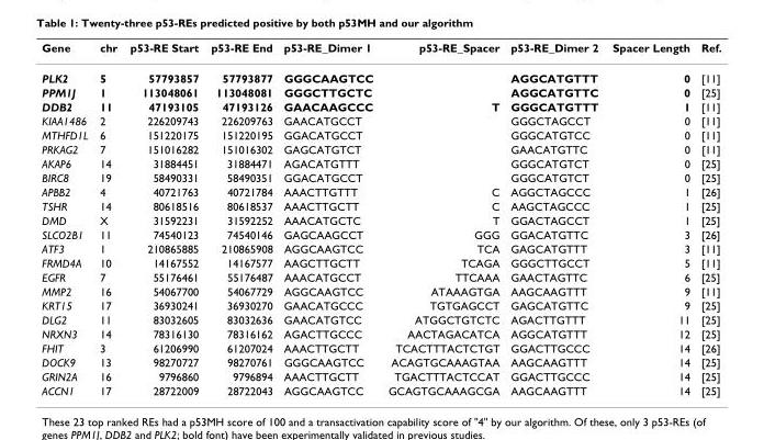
<table><thead><tr><td>Gene</td><td>chr</td><td>p53-RE Start</td><td>p53-RE End</td><td>p53-RE_Dimer 1</td><td>p53-RE_Spacer</td><td>p53-RE_Dimer 2</td><td>Spacer Length</td><td>Ref.</td></tr></thead><tbody><tr><td>PLK2</td><td>5</td><td>57793857</td><td>57793877</td><td>GGGCAAGTCC</td><td></td><td>AGGCATGTTT</td><td>0</td><td>[11]</td></tr><tr><td>PPM1J</td><td>1</td><td>113048061</td><td>113048081</td><td>GGGCTTGCTC</td><td></td><td>AGGCATGTTC</td><td>0</td><td>[25]</td></tr><tr><td>DDB2</td><td>11</td><td>47193105</td><td>47193126</td><td>GAACAAGCCC</td><td>T</td><td>GGGCATGTTT</td><td>1</td><td>[11]</td></tr><tr><td>KIAA1486</td><td>2</td><td>226209743</td><td>226209763</td><td>GAACATGCCT</td><td></td><td>GGGCTAGCCT</td><td>0</td><td>[11]</td></tr><tr><td>MTHFD1L</td><td>6</td><td>151220175</td><td>151220195</td><td>GGACATGCCT</td><td></td><td>GGGCATGTCC</td><td>0</td><td>[11]</td></tr><tr><td>PRKAG2</td><td>7</td><td>151016282</td><td>151016302</td><td>GAGCATGTCT</td><td></td><td>GAACATGTTC</td><td>0</td><td>[11]</td></tr><tr><td>AKAP6</td><td>14</td><td>31884451</td><td>31884471</td><td>AGACATGTTT</td><td></td><td>GGGCATGTCT</td><td>0</td><td>[25]</td></tr><tr><td>BIRC8</td><td>19</td><td>58490331</td><td>58490351</td><td>GGACATGCCT</td><td></td><td>GGGCATGTCT</td><td>0</td><td>[25]</td></tr><tr><td>APBB2</td><td>4</td><td>40721763</td><td>40721784</td><td>AAACTTGTTT</td><td>C</td><td>AGGCTAGCCC</td><td>1</td><td>[26]</td></tr><tr><td>TSHR</td><td>14</td><td>80618516</td><td>80618537</td><td>AAACTTGCTT</td><td>C</td><td>AAGCTAGCCC</td><td>1</td><td>[25]</td></tr><tr><td>DMD</td><td>X</td><td>31592231</td><td>31592252</td><td>AAACATGCTC</td><td>T</td><td>GGACTAGCCT</td><td>1</td><td>[25]</td></tr><tr><td>SLCO2B1</td><td>11</td><td>74540123</td><td>74540146</td><td>GAGCAAGCCT</td><td>GGG</td><td>GGACATGTTC</td><td>3</td><td>[26]</td></tr><tr><td>ATF3</td><td>1</td><td>210865885</td><td>210865908</td><td>AGGCAAGTCC</td><td>TCA</td><td>GAGCATGTTT</td><td>3</td><td>[11]</td></tr><tr><td>FRMD4A</td><td>10</td><td>14167552</td><td>14167577</td><td>AAGCTTGCTT</td><td>TCAGA</td><td>GGGCTTGCCT</td><td>5</td><td>[11]</td></tr><tr><td>EGFR</td><td>7</td><td>55176461</td><td>55176487</td><td>AAACATGCCT</td><td>TTCAAA</td><td>GAACTAGTTC</td><td>6</td><td>[25]</td></tr><tr><td>MMP2</td><td>16</td><td>54067700</td><td>54067729</td><td>AGGCAAGTCC</td><td>ATAAAGTGA</td><td>AAGCAAGTTT</td><td>9</td><td>[11]</td></tr><tr><td>KRT15</td><td>17</td><td>36930241</td><td>36930270</td><td>GAACATGCCC</td><td>TGTGAGCCT</td><td>GAGCATGTTC</td><td>9</td><td>[25]</td></tr><tr><td>DLG2</td><td>11</td><td>83032605</td><td>83032636</td><td>GAACATGTCC</td><td>ATGGCTGTCTC</td><td>AGACTTGTTT</td><td>11</td><td>[25]</td></tr><tr><td>NRXN3</td><td>14</td><td>78316130</td><td>78316162</td><td>AGACTTGCCC</td><td>AACTAGACATCA</td><td>AGGCATGTTT</td><td>12</td><td>[25]</td></tr><tr><td>FHIT</td><td>3</td><td>61206990</td><td>61207024</td><td>AAACTTGCTT</td><td>TCACTTTACTCTGT</td><td>GGACTTGCCC</td><td>14</td><td>[26]</td></tr><tr><td>DOCK9</td><td>13</td><td>98270727</td><td>98270761</td><td>GGGCAAGTCC</td><td>ACAGTGCAAAGTAA</td><td>AAGCAAGTTT</td><td>14</td><td>[25]</td></tr><tr><td>GRIN2A</td><td>16</td><td>9796860</td><td>9796894</td><td>AAACTTGCTT</td><td>TGACTTTACTCCAT</td><td>GGACTTGCCC</td><td>14</td><td>[25]</td></tr><tr><td>ACCN1</td><td>17</td><td>28722009</td><td>28722043</td><td>AGGCAAGTCC</td><td>GCAGTGCAAAGCGA</td><td>AAGCAAGTTT</td><td>14</td><td>[25]</td></tr></tbody></table>